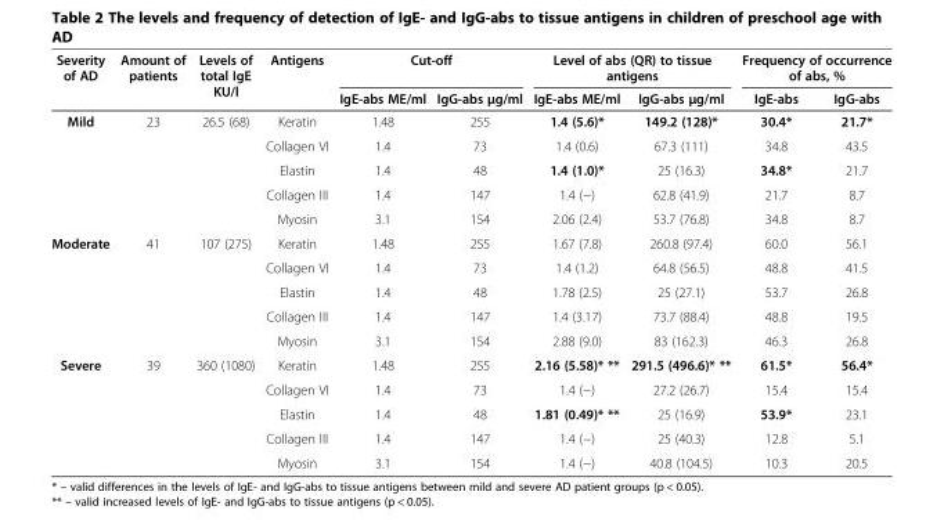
<table><thead><tr><td rowspan="2">Severity of AD</td><td rowspan="2">Amount of patients</td><td rowspan="2">Levels of total IgE KU/l</td><td rowspan="2">Antigens</td><td colspan="2">Cut-off</td><td colspan="2">Level of abs (QR) to tissue antigens</td><td colspan="2">Frequency of occurrence of abs, %</td></tr><tr><td>IgE-abs МЕ/ml</td><td>IgG-abs μg/ml</td><td>IgE-abs МЕ/ml</td><td>IgG-abs μg/ml</td><td>IgE-abs</td><td>IgG-abs</td></tr></thead><tbody><tr><td rowspan="5">Mild</td><td rowspan="5">23</td><td rowspan="5">26.5 (68)</td><td>Keratin</td><td>1.48</td><td>255</td><td>1.4 (5.6)*</td><td>149.2 (128)*</td><td>30.4*</td><td>21.7*</td></tr><tr><td>Collagen VI</td><td>1.4</td><td>73</td><td>1.4 (0.6)</td><td>67.3 (111)</td><td>34.8</td><td>43.5</td></tr><tr><td>Elastin</td><td>1.4</td><td>48</td><td>1.4 (1.0)*</td><td>25 (16.3)</td><td>34.8*</td><td>21.7</td></tr><tr><td>Collagen III</td><td>1.4</td><td>147</td><td>1.4 (−)</td><td>62.8 (41.9)</td><td>21.7</td><td>8.7</td></tr><tr><td>Myosin</td><td>3.1</td><td>154</td><td>2.06 (2.4)</td><td>53.7 (76.8)</td><td>34.8</td><td>8.7</td></tr><tr><td rowspan="5">Moderate</td><td rowspan="5">41</td><td rowspan="5">107 (275)</td><td>Keratin</td><td>1.48</td><td>255</td><td>1.67 (7.8)</td><td>260.8 (97.4)</td><td>60.0</td><td>56.1</td></tr><tr><td>Collagen VI</td><td>1.4</td><td>73</td><td>1.4 (1.2)</td><td>64.8 (56.5)</td><td>48.8</td><td>41.5</td></tr><tr><td>Elastin</td><td>1.4</td><td>48</td><td>1.78 (2.5)</td><td>25 (27.1)</td><td>53.7</td><td>26.8</td></tr><tr><td>Collagen III</td><td>1.4</td><td>147</td><td>1.4 (3.17)</td><td>73.7 (88.4)</td><td>48.8</td><td>19.5</td></tr><tr><td>Myosin</td><td>3.1</td><td>154</td><td>2.88 (9.0)</td><td>83 (162.3)</td><td>46.3</td><td>26.8</td></tr><tr><td rowspan="5">Severe</td><td rowspan="4">39</td><td rowspan="4">360 (1080)</td><td>Keratin</td><td>1.48</td><td>255</td><td>2.16 (5.58)* **</td><td>291.5 (496.6)* **</td><td>61.5*</td><td>56.4*</td></tr><tr><td>Collagen VI</td><td>1.4</td><td>73</td><td>1.4 (−)</td><td>27.2 (26.7)</td><td>15.4</td><td>15.4</td></tr><tr><td>Elastin</td><td>1.4</td><td>48</td><td>1.81 (0.49)* **</td><td>25 (16.9)</td><td>53.9*</td><td>23.1</td></tr><tr><td>Collagen III</td><td>1.4</td><td>147</td><td>1.4 (−)</td><td>25 (40.3)</td><td>12.8</td><td>5.1</td></tr><tr><td></td><td></td><td>Myosin</td><td>3.1</td><td>154</td><td>1.4 (−)</td><td>40.8 (104.5)</td><td>10.3</td><td>20.5</td></tr></tbody></table>